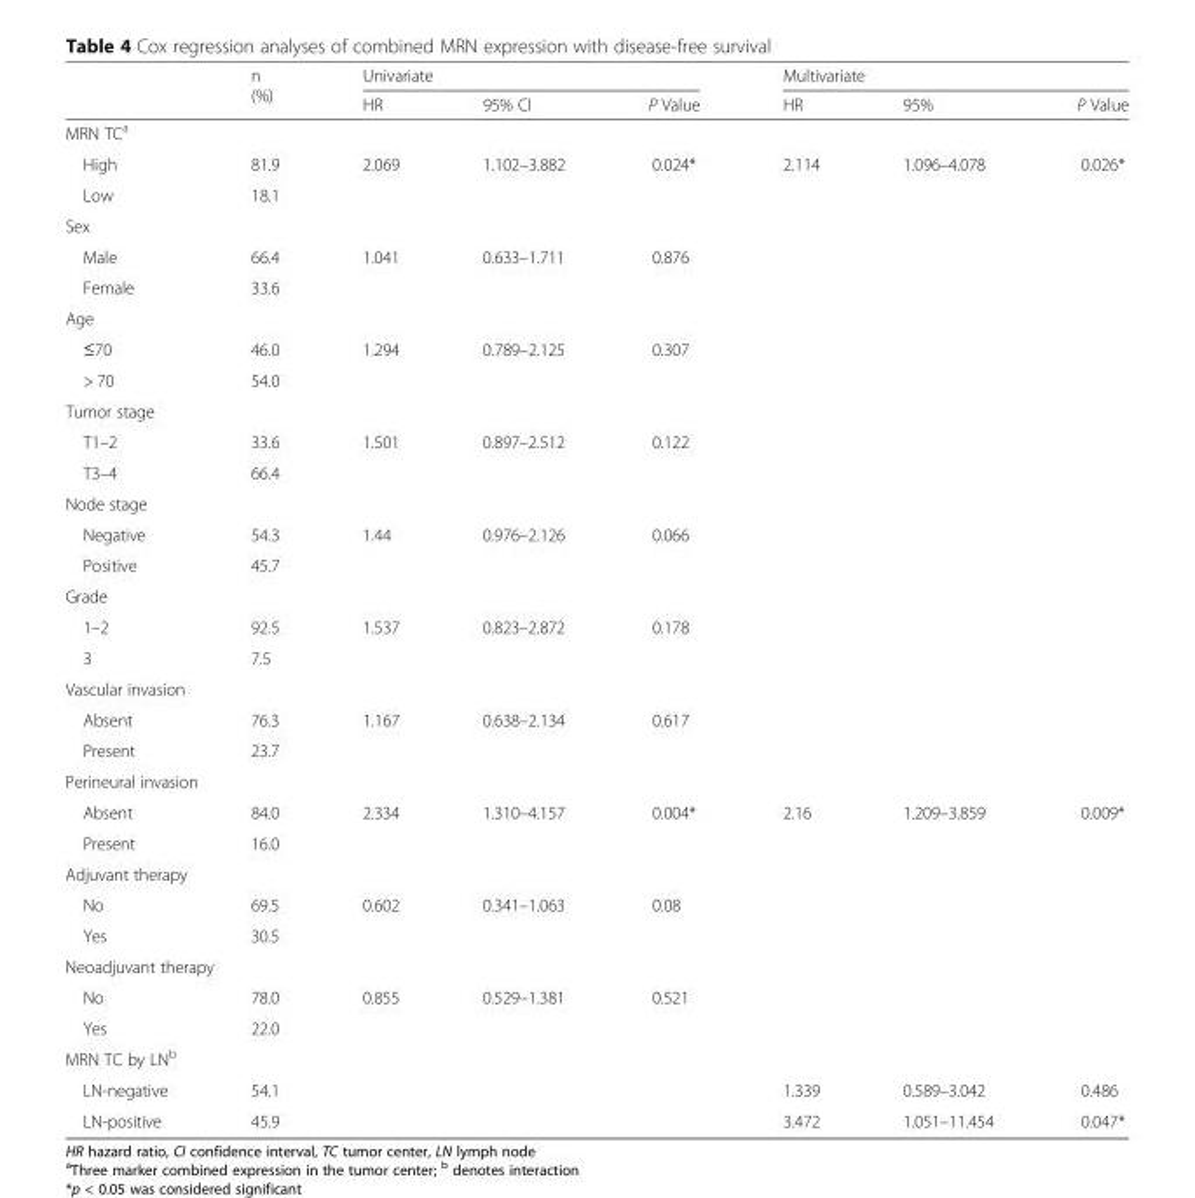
<table><thead><tr><td rowspan="2"></td><td rowspan="2">n (%)</td><td colspan="3">Univariate</td><td colspan="3">Multivariate</td></tr><tr><td>HR</td><td>95% CI</td><td>P Value</td><td>HR</td><td>95%</td><td>P Value</td></tr></thead><tbody><tr><td colspan="8">MRN TC<sup>a</sup></td></tr><tr><td>High</td><td>81.9</td><td>2.069</td><td>1.102–3.882</td><td>0.024*</td><td>2.114</td><td>1.096–4.078</td><td>0.026*</td></tr><tr><td>Low</td><td>18.1</td><td></td><td></td><td></td><td></td><td></td><td></td></tr><tr><td colspan="8">Sex</td></tr><tr><td>Male</td><td>66.4</td><td>1.041</td><td>0.633–1.711</td><td>0.876</td><td></td><td></td><td></td></tr><tr><td>Female</td><td>33.6</td><td></td><td></td><td></td><td></td><td></td><td></td></tr><tr><td colspan="8">Age</td></tr><tr><td>≤70</td><td>46.0</td><td>1.294</td><td>0.789–2.125</td><td>0.307</td><td></td><td></td><td></td></tr><tr><td>&gt; 70</td><td>54.0</td><td></td><td></td><td></td><td></td><td></td><td></td></tr><tr><td colspan="8">Tumor stage</td></tr><tr><td>T1–2</td><td>33.6</td><td>1.501</td><td>0.897–2.512</td><td>0.122</td><td></td><td></td><td></td></tr><tr><td>T3–4</td><td>66.4</td><td></td><td></td><td></td><td></td><td></td><td></td></tr><tr><td colspan="8">Node stage</td></tr><tr><td>Negative</td><td>54.3</td><td>1.44</td><td>0.976–2.126</td><td>0.066</td><td></td><td></td><td></td></tr><tr><td>Positive</td><td>45.7</td><td></td><td></td><td></td><td></td><td></td><td></td></tr><tr><td colspan="8">Grade</td></tr><tr><td>1–2</td><td>92.5</td><td>1.537</td><td>0.823–2.872</td><td>0.178</td><td></td><td></td><td></td></tr><tr><td>3</td><td>7.5</td><td></td><td></td><td></td><td></td><td></td><td></td></tr><tr><td colspan="8">Vascular invasion</td></tr><tr><td>Absent</td><td>76.3</td><td>1.167</td><td>0.638–2.134</td><td>0.617</td><td></td><td></td><td></td></tr><tr><td>Present</td><td>23.7</td><td></td><td></td><td></td><td></td><td></td><td></td></tr><tr><td colspan="8">Perineural invasion</td></tr><tr><td>Absent</td><td>84.0</td><td>2.334</td><td>1.310–4.157</td><td>0.004*</td><td>2.16</td><td>1.209–3.859</td><td>0.009*</td></tr><tr><td>Present</td><td>16.0</td><td></td><td></td><td></td><td></td><td></td><td></td></tr><tr><td colspan="8">Adjuvant therapy</td></tr><tr><td>No</td><td>69.5</td><td>0.602</td><td>0.341–1.063</td><td>0.08</td><td></td><td></td><td></td></tr><tr><td>Yes</td><td>30.5</td><td></td><td></td><td></td><td></td><td></td><td></td></tr><tr><td colspan="8">Neoadjuvant therapy</td></tr><tr><td>No</td><td>78.0</td><td>0.855</td><td>0.529–1.381</td><td>0.521</td><td></td><td></td><td></td></tr><tr><td>Yes</td><td>22.0</td><td></td><td></td><td></td><td></td><td></td><td></td></tr><tr><td colspan="8">MRN TC by LN<sup>b</sup></td></tr><tr><td>LN-negative</td><td>54.1</td><td></td><td></td><td></td><td>1.339</td><td>0.589–3.042</td><td>0.486</td></tr><tr><td>LN-positive</td><td>45.9</td><td></td><td></td><td></td><td>3.472</td><td>1.051–11.454</td><td>0.047*</td></tr></tbody></table>